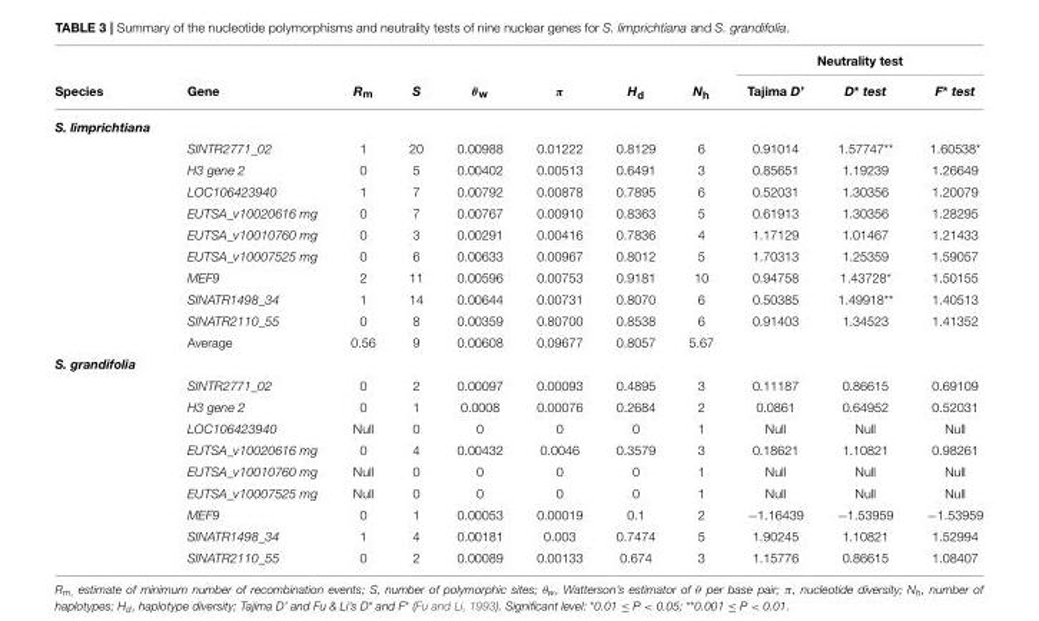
<table><thead><tr><td rowspan="2">Species</td><td rowspan="2">Gene</td><td rowspan="2">R<sub>m</sub></td><td rowspan="2">S</td><td rowspan="2">θ<sub>w</sub></td><td rowspan="2">π</td><td rowspan="2">H<sub>d</sub></td><td rowspan="2">N<sub>h</sub></td><td colspan="3">Neutrality test</td></tr><tr><td>Tajima D’</td><td>D* test</td><td>F* test</td></tr></thead><tbody><tr><td colspan="11">S. limprichtiana</td></tr><tr><td></td><td>SINTR2771_02</td><td>1</td><td>20</td><td>0.00988</td><td>0.01222</td><td>0.8129</td><td>6</td><td>0.91014</td><td>1.57747**</td><td>1.60538*</td></tr><tr><td></td><td>H3 gene 2</td><td>0</td><td>5</td><td>0.00402</td><td>0.00513</td><td>0.6491</td><td>3</td><td>0.85651</td><td>1.19239</td><td>1.26649</td></tr><tr><td></td><td>LOC106423940</td><td>1</td><td>7</td><td>0.00792</td><td>0.00878</td><td>0.7895</td><td>6</td><td>0.52031</td><td>1.30356</td><td>1.20079</td></tr><tr><td></td><td>EUTSA_v10020616 mg</td><td>0</td><td>7</td><td>0.00767</td><td>0.00910</td><td>0.8363</td><td>5</td><td>0.61913</td><td>1.30356</td><td>1.28295</td></tr><tr><td></td><td>EUTSA_v10010760 mg</td><td>0</td><td>3</td><td>0.00291</td><td>0.00416</td><td>0.7836</td><td>4</td><td>1.17129</td><td>1.01467</td><td>1.21433</td></tr><tr><td></td><td>EUTSA_v10007525 mg</td><td>0</td><td>6</td><td>0.00633</td><td>0.00967</td><td>0.8012</td><td>5</td><td>1.70313</td><td>1.25359</td><td>1.59057</td></tr><tr><td></td><td>MEF9</td><td>2</td><td>11</td><td>0.00596</td><td>0.00753</td><td>0.9181</td><td>10</td><td>0.94758</td><td>1.43728*</td><td>1.50155</td></tr><tr><td></td><td>SINATR1498_34</td><td>1</td><td>14</td><td>0.00644</td><td>0.00731</td><td>0.8070</td><td>6</td><td>0.50385</td><td>1.49918**</td><td>1.40513</td></tr><tr><td></td><td>SINATR2110_55</td><td>0</td><td>8</td><td>0.00359</td><td>0.80700</td><td>0.8538</td><td>6</td><td>0.91403</td><td>1.34523</td><td>1.41352</td></tr><tr><td></td><td>Average</td><td>0.56</td><td>9</td><td>0.00608</td><td>0.09677</td><td>0.8057</td><td>5.67</td><td></td><td></td><td></td></tr><tr><td colspan="11">S. grandifolia</td></tr><tr><td></td><td>SINTR2771_02</td><td>0</td><td>2</td><td>0.00097</td><td>0.00093</td><td>0.4895</td><td>3</td><td>0.11187</td><td>0.86615</td><td>0.69109</td></tr><tr><td></td><td>H3 gene 2</td><td>0</td><td>1</td><td>0.0008</td><td>0.00076</td><td>0.2684</td><td>2</td><td>0.0861</td><td>0.64952</td><td>0.52031</td></tr><tr><td></td><td>LOC106423940</td><td>Null</td><td>0</td><td>0</td><td>0</td><td>0</td><td>1</td><td>Null</td><td>Null</td><td>Null</td></tr><tr><td></td><td>EUTSA_v10020616 mg</td><td>0</td><td>4</td><td>0.00432</td><td>0.0046</td><td>0.3579</td><td>3</td><td>0.18621</td><td>1.10821</td><td>0.98261</td></tr><tr><td></td><td>EUTSA_v10010760 mg</td><td>Null</td><td>0</td><td>0</td><td>0</td><td>0</td><td>1</td><td>Null</td><td>Null</td><td>Null</td></tr><tr><td></td><td>EUTSA_v10007525 mg</td><td>Null</td><td>0</td><td>0</td><td>0</td><td>0</td><td>1</td><td>Null</td><td>Null</td><td>Null</td></tr><tr><td></td><td>MEF9</td><td>0</td><td>1</td><td>0.00053</td><td>0.00019</td><td>0.1</td><td>2</td><td>−1.16439</td><td>−1.53959</td><td>−1.53959</td></tr><tr><td></td><td>SINATR1498_34</td><td>1</td><td>4</td><td>0.00181</td><td>0.003</td><td>0.7474</td><td>5</td><td>1.90245</td><td>1.10821</td><td>1.52994</td></tr><tr><td></td><td>SINATR2110_55</td><td>0</td><td>2</td><td>0.00089</td><td>0.00133</td><td>0.674</td><td>3</td><td>1.15776</td><td>0.86615</td><td>1.08407</td></tr></tbody></table>